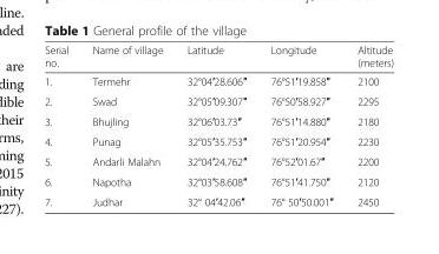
<table><thead><tr><td>Serial no.</td><td>Name of village</td><td>Latitude</td><td>Longitude</td><td>Altitude (meters)</td></tr></thead><tbody><tr><td>1.</td><td>Termehr</td><td>32°04′28.606″</td><td>76°51′19.858″</td><td>2100</td></tr><tr><td>2.</td><td>Swad</td><td>32°05′09.307″</td><td>76°50′58.927″</td><td>2295</td></tr><tr><td>3.</td><td>Bhujling</td><td>32°06′03.73″</td><td>76°51′14.880″</td><td>2180</td></tr><tr><td>4.</td><td>Punag</td><td>32°05′35.753″</td><td>76°51′20.954″</td><td>2230</td></tr><tr><td>5.</td><td>Andarli Malahn</td><td>32°04′24.762″</td><td>76°52′01.67″</td><td>2200</td></tr><tr><td>6.</td><td>Napotha</td><td>32°03′58.608″</td><td>76°51′41.750″</td><td>2120</td></tr><tr><td>7.</td><td>Judhar</td><td>32° 04′42.06″</td><td>76° 50′50.001″</td><td>2450</td></tr></tbody></table>